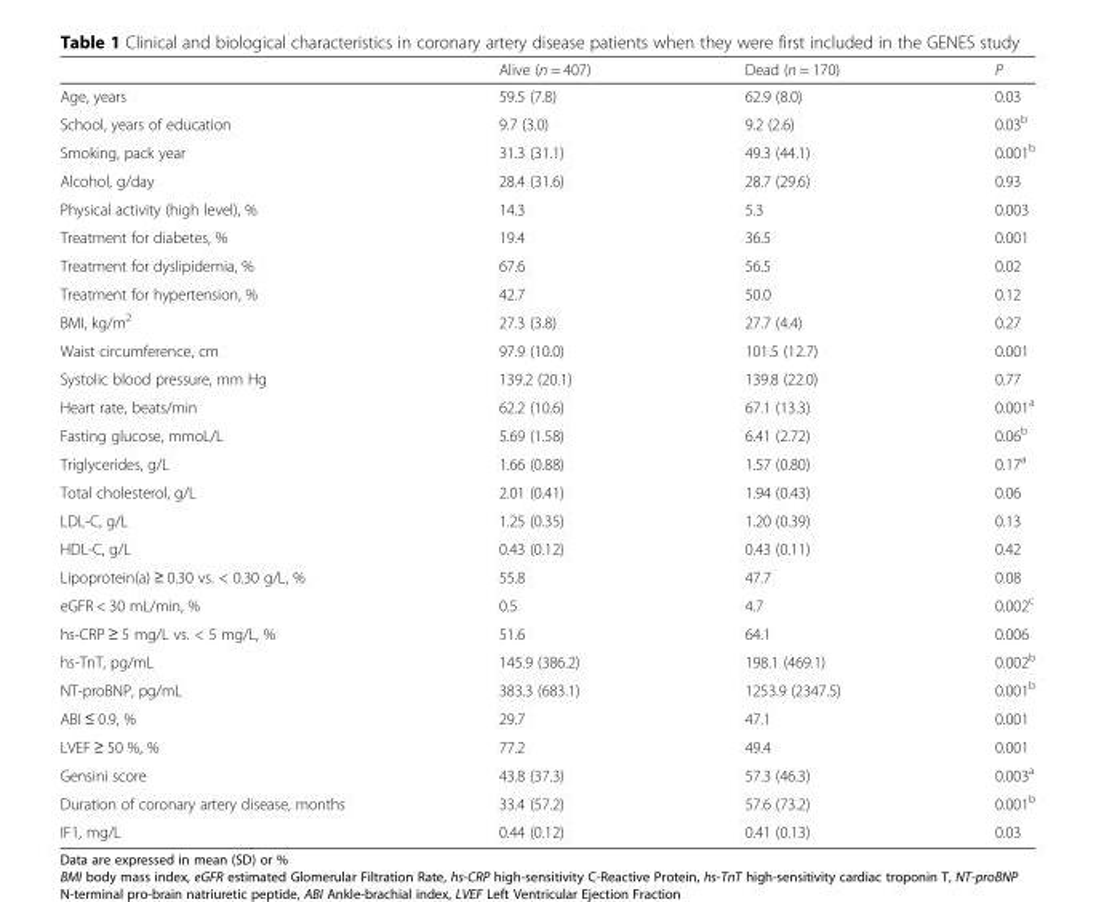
<table><thead><tr><td></td><td>Alive (n = 407)</td><td>Dead (n = 170)</td><td>P</td></tr></thead><tbody><tr><td>Age, years</td><td>59.5 (7.8)</td><td>62.9 (8.0)</td><td>0.03</td></tr><tr><td>School, years of education</td><td>9.7 (3.0)</td><td>9.2 (2.6)</td><td>0.03<sup>b</sup></td></tr><tr><td>Smoking, pack year</td><td>31.3 (31.1)</td><td>49.3 (44.1)</td><td>0.001<sup>b</sup></td></tr><tr><td>Alcohol, g/day</td><td>28.4 (31.6)</td><td>28.7 (29.6)</td><td>0.93</td></tr><tr><td>Physical activity (high level), %</td><td>14.3</td><td>5.3</td><td>0.003</td></tr><tr><td>Treatment for diabetes, %</td><td>19.4</td><td>36.5</td><td>0.001</td></tr><tr><td>Treatment for dyslipidemia, %</td><td>67.6</td><td>56.5</td><td>0.02</td></tr><tr><td>Treatment for hypertension, %</td><td>42.7</td><td>50.0</td><td>0.12</td></tr><tr><td>BMI, kg/m<sup>2</sup></td><td>27.3 (3.8)</td><td>27.7 (4.4)</td><td>0.27</td></tr><tr><td>Waist circumference, cm</td><td>97.9 (10.0)</td><td>101.5 (12.7)</td><td>0.001</td></tr><tr><td>Systolic blood pressure, mm Hg</td><td>139.2 (20.1)</td><td>139.8 (22.0)</td><td>0.77</td></tr><tr><td>Heart rate, beats/min</td><td>62.2 (10.6)</td><td>67.1 (13.3)</td><td>0.001<sup>a</sup></td></tr><tr><td>Fasting glucose, mmoL/L</td><td>5.69 (1.58)</td><td>6.41 (2.72)</td><td>0.06<sup>b</sup></td></tr><tr><td>Triglycerides, g/L</td><td>1.66 (0.88)</td><td>1.57 (0.80)</td><td>0.17<sup>a</sup></td></tr><tr><td>Total cholesterol, g/L</td><td>2.01 (0.41)</td><td>1.94 (0.43)</td><td>0.06</td></tr><tr><td>LDL-C, g/L</td><td>1.25 (0.35)</td><td>1.20 (0.39)</td><td>0.13</td></tr><tr><td>HDL-C, g/L</td><td>0.43 (0.12)</td><td>0.43 (0.11)</td><td>0.42</td></tr><tr><td>Lipoprotein(a) ≥ 0.30 vs. &lt; 0.30 g/L, %</td><td>55.8</td><td>47.7</td><td>0.08</td></tr><tr><td>eGFR &lt; 30 mL/min, %</td><td>0.5</td><td>4.7</td><td>0.002<sup>c</sup></td></tr><tr><td>hs-CRP ≥ 5 mg/L vs. &lt; 5 mg/L, %</td><td>51.6</td><td>64.1</td><td>0.006</td></tr><tr><td>hs-TnT, pg/mL</td><td>145.9 (386.2)</td><td>198.1 (469.1)</td><td>0.002<sup>b</sup></td></tr><tr><td>NT-proBNP, pg/mL</td><td>383.3 (683.1)</td><td>1253.9 (2347.5)</td><td>0.001<sup>b</sup></td></tr><tr><td>ABI ≤ 0.9, %</td><td>29.7</td><td>47.1</td><td>0.001</td></tr><tr><td>LVEF ≥ 50 %, %</td><td>77.2</td><td>49.4</td><td>0.001</td></tr><tr><td>Gensini score</td><td>43.8 (37.3)</td><td>57.3 (46.3)</td><td>0.003<sup>a</sup></td></tr><tr><td>Duration of coronary artery disease, months</td><td>33.4 (57.2)</td><td>57.6 (73.2)</td><td>0.001<sup>b</sup></td></tr><tr><td>IF1, mg/L</td><td>0.44 (0.12)</td><td>0.41 (0.13)</td><td>0.03</td></tr></tbody></table>